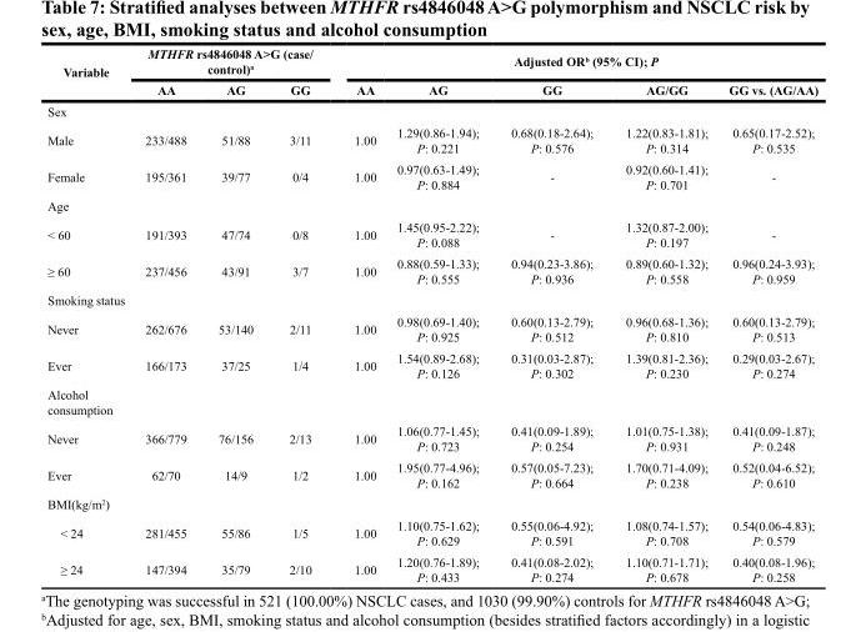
<table><thead><tr><td rowspan="2">Variable</td><td colspan="3">MTHFR rs4846048 A&gt;G (case/ control)<sup>a</sup></td><td colspan="5">Adjusted OR<sup>b</sup> (95% CI); P</td></tr><tr><td>AA</td><td>AG</td><td>GG</td><td>AA</td><td>AG</td><td>GG</td><td>AG/GG</td><td>GG vs. (AG/AA)</td></tr></thead><tbody><tr><td colspan="9">Sex</td></tr><tr><td>Male</td><td>233/488</td><td>51/88</td><td>3/11</td><td>1.00</td><td>1.29(0.86-1.94); P: 0.221</td><td>0.68(0.18-2.64); P: 0.576</td><td>1.22(0.83-1.81); P: 0.314</td><td>0.65(0.17-2.52); P: 0.535</td></tr><tr><td>Female</td><td>195/361</td><td>39/77</td><td>0/4</td><td>1.00</td><td>0.97(0.63-1.49); P: 0.884</td><td>-</td><td>0.92(0.60-1.41); P: 0.701</td><td>-</td></tr><tr><td colspan="9">Age</td></tr><tr><td>&lt; 60</td><td>191/393</td><td>47/74</td><td>0/8</td><td>1.00</td><td>1.45(0.95-2.22); P: 0.088</td><td>-</td><td>1.32(0.87-2.00); P: 0.197</td><td>-</td></tr><tr><td>≥ 60</td><td>237/456</td><td>43/91</td><td>3/7</td><td>1.00</td><td>0.88(0.59-1.33); P: 0.555</td><td>0.94(0.23-3.86); P: 0.936</td><td>0.89(0.60-1.32); P: 0.558</td><td>0.96(0.24-3.93); P: 0.959</td></tr><tr><td colspan="9">Smoking status</td></tr><tr><td>Never</td><td>262/676</td><td>53/140</td><td>2/11</td><td>1.00</td><td>0.98(0.69-1.40); P: 0.925</td><td>0.60(0.13-2.79); P: 0.512</td><td>0.96(0.68-1.36); P: 0.810</td><td>0.60(0.13-2.79); P: 0.513</td></tr><tr><td>Ever</td><td>166/173</td><td>37/25</td><td>1/4</td><td>1.00</td><td>1.54(0.89-2.68); P: 0.126</td><td>0.31(0.03-2.87); P: 0.302</td><td>1.39(0.81-2.36); P: 0.230</td><td>0.29(0.03-2.67); P: 0.274</td></tr><tr><td colspan="9">Alcohol consumption</td></tr><tr><td>Never</td><td>366/779</td><td>76/156</td><td>2/13</td><td>1.00</td><td>1.06(0.77-1.45); P: 0.723</td><td>0.41(0.09-1.89); P: 0.254</td><td>1.01(0.75-1.38); P: 0.931</td><td>0.41(0.09-1.87); P: 0.248</td></tr><tr><td>Ever</td><td>62/70</td><td>14/9</td><td>1/2</td><td>1.00</td><td>1.95(0.77-4.96); P: 0.162</td><td>0.57(0.05-7.23); P: 0.664</td><td>1.70(0.71-4.09); P: 0.238</td><td>0.52(0.04-6.52); P: 0.610</td></tr><tr><td colspan="9">BMI(kg/m<sup>2</sup>)</td></tr><tr><td>&lt; 24</td><td>281/455</td><td>55/86</td><td>1/5</td><td>1.00</td><td>1.10(0.75-1.62); P: 0.629</td><td>0.55(0.06-4.92); P: 0.591</td><td>1.08(0.74-1.57); P: 0.708</td><td>0.54(0.06-4.83); P: 0.579</td></tr><tr><td>≥ 24</td><td>147/394</td><td>35/79</td><td>2/10</td><td>1.00</td><td>1.20(0.76-1.89); P: 0.433</td><td>0.41(0.08-2.02); P: 0.274</td><td>1.10(0.71-1.71); P: 0.678</td><td>0.40(0.08-1.96); P: 0.258</td></tr></tbody></table>